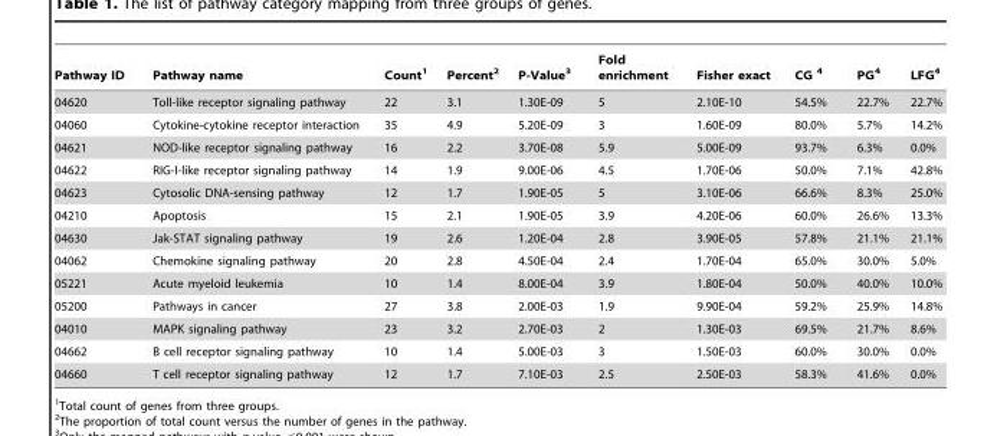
<table><thead><tr><td>Pathway ID</td><td>Pathway name</td><td>Count<sup>1</sup></td><td>Percent<sup>2</sup></td><td>P-Value<sup>3</sup></td><td>Fold enrichment</td><td>Fisher exact</td><td>CG 4</td><td>PG<sup>4</sup></td><td>LFG<sup>4</sup></td></tr></thead><tbody><tr><td>04620</td><td>Toll-like receptor signaling pathway</td><td>22</td><td>3.1</td><td>1.30E-09</td><td>5</td><td>2.10E-10</td><td>54.5%</td><td>22.7%</td><td>22.7%</td></tr><tr><td>04060</td><td>Cytokine-cytokine receptor interaction</td><td>35</td><td>4.9</td><td>5.20E-09</td><td>3</td><td>1.60E-09</td><td>80.0%</td><td>5.7%</td><td>14.2%</td></tr><tr><td>04621</td><td>NOD-like receptor signaling pathway</td><td>16</td><td>2.2</td><td>3.70E-08</td><td>5.9</td><td>5.00E-09</td><td>93.7%</td><td>6.3%</td><td>0.0%</td></tr><tr><td>04622</td><td>RIG-I-like receptor signaling pathway</td><td>14</td><td>1.9</td><td>9.00E-06</td><td>4.5</td><td>1.70E-06</td><td>50.0%</td><td>7.1%</td><td>42.8%</td></tr><tr><td>04623</td><td>Cytosolic DNA-sensing pathway</td><td>12</td><td>1.7</td><td>1.90E-05</td><td>5</td><td>3.10E-06</td><td>66.6%</td><td>8.3%</td><td>25.0%</td></tr><tr><td>04210</td><td>Apoptosis</td><td>15</td><td>2.1</td><td>1.90E-05</td><td>3.9</td><td>4.20E-06</td><td>60.0%</td><td>26.6%</td><td>13.3%</td></tr><tr><td>04630</td><td>Jak-STAT signaling pathway</td><td>19</td><td>2.6</td><td>1.20E-04</td><td>2.8</td><td>3.90E-05</td><td>57.8%</td><td>21.1%</td><td>21.1%</td></tr><tr><td>04062</td><td>Chemokine signaling pathway</td><td>20</td><td>2.8</td><td>4.50E-04</td><td>2.4</td><td>1.70E-04</td><td>65.0%</td><td>30.0%</td><td>5.0%</td></tr><tr><td>05221</td><td>Acute myeloid leukemia</td><td>10</td><td>1.4</td><td>8.00E-04</td><td>3.9</td><td>1.80E-04</td><td>50.0%</td><td>40.0%</td><td>10.0%</td></tr><tr><td>05200</td><td>Pathways in cancer</td><td>27</td><td>3.8</td><td>2.00E-03</td><td>1.9</td><td>9.90E-04</td><td>59.2%</td><td>25.9%</td><td>14.8%</td></tr><tr><td>04010</td><td>MAPK signaling pathway</td><td>23</td><td>3.2</td><td>2.70E-03</td><td>2</td><td>1.30E-03</td><td>69.5%</td><td>21.7%</td><td>8.6%</td></tr><tr><td>04662</td><td>B cell receptor signaling pathway</td><td>10</td><td>1.4</td><td>5.00E-03</td><td>3</td><td>1.50E-03</td><td>60.0%</td><td>30.0%</td><td>0.0%</td></tr><tr><td>04660</td><td>T cell receptor signaling pathway</td><td>12</td><td>1.7</td><td>7.10E-03</td><td>2.5</td><td>2.50E-03</td><td>58.3%</td><td>41.6%</td><td>0.0%</td></tr></tbody></table>